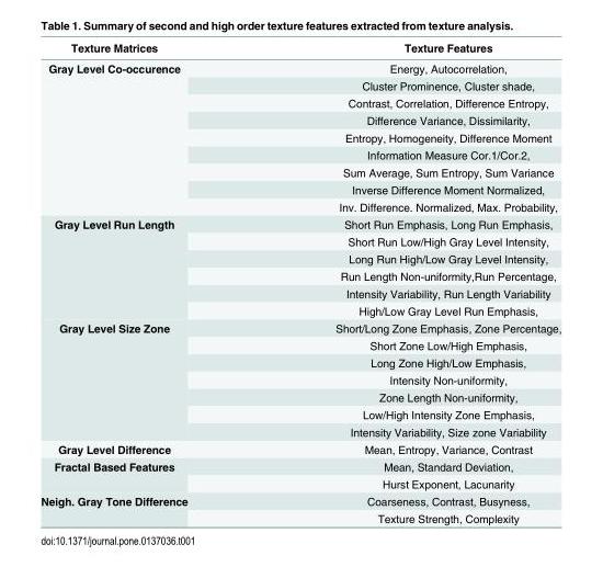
<table><thead><tr><td>Texture Matrices</td><td>Texture Features</td></tr></thead><tbody><tr><td rowspan="9">Gray Level Co-occurence</td><td>Energy, Autocorrelation,</td></tr><tr><td>Cluster Prominence, Cluster shade,</td></tr><tr><td>Contrast, Correlation, Difference Entropy,</td></tr><tr><td>Difference Variance, Dissimilarity,</td></tr><tr><td>Entropy, Homogeneity, Difference Moment</td></tr><tr><td>Information Measure Cor.1/Cor.2,</td></tr><tr><td>Sum Average, Sum Entropy, Sum Variance</td></tr><tr><td>Inverse Difference Moment Normalized,</td></tr><tr><td>Inv. Difference. Normalized, Max. Probability,</td></tr><tr><td rowspan="6">Gray Level Run Length</td><td>Short Run Emphasis, Long Run Emphasis,</td></tr><tr><td>Short Run Low/High Gray Level Intensity,</td></tr><tr><td>Long Run High/Low Gray Level Intensity,</td></tr><tr><td>Run Length Non-uniformity,Run Percentage,</td></tr><tr><td>Intensity Variability, Run Length Variability</td></tr><tr><td>High/Low Gray Level Run Emphasis,</td></tr><tr><td rowspan="7">Gray Level Size Zone</td><td>Short/Long Zone Emphasis, Zone Percentage,</td></tr><tr><td>Short Zone Low/High Emphasis,</td></tr><tr><td>Long Zone High/Low Emphasis,</td></tr><tr><td>Intensity Non-uniformity,</td></tr><tr><td>Zone Length Non-uniformity,</td></tr><tr><td>Low/High Intensity Zone Emphasis,</td></tr><tr><td>Intensity Variability, Size zone Variability</td></tr><tr><td>Gray Level Difference</td><td>Mean, Entropy, Variance, Contrast</td></tr><tr><td rowspan="2">Fractal Based Features</td><td>Mean, Standard Deviation,</td></tr><tr><td>Hurst Exponent, Lacunarity</td></tr><tr><td rowspan="2">Neigh. Gray Tone Difference</td><td>Coarseness, Contrast, Busyness,</td></tr><tr><td>Texture Strength, Complexity</td></tr></tbody></table>